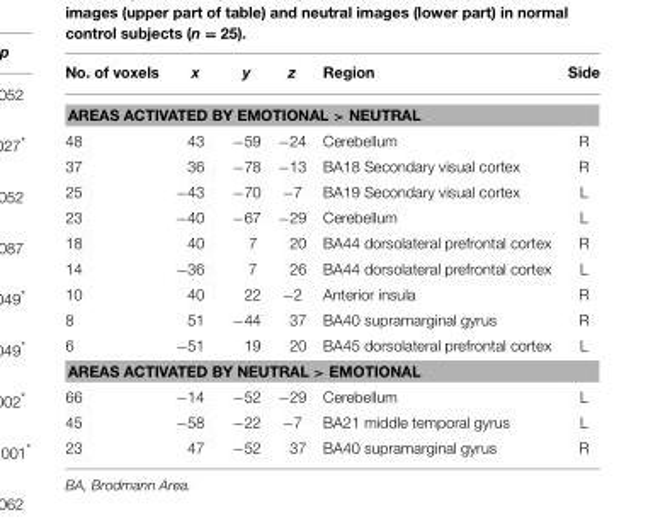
<table><thead><tr><td>No. of voxels</td><td>x</td><td>y</td><td>z</td><td>Region</td><td>Side</td></tr></thead><tbody><tr><td colspan="6">AREAS ACTIVATED BY EMOTIONAL &gt; NEUTRAL</td></tr><tr><td>48</td><td>43</td><td>−59</td><td>−24</td><td>Cerebellum</td><td>R</td></tr><tr><td>37</td><td>36</td><td>−78</td><td>−13</td><td>BA18 Secondary visual cortex</td><td>R</td></tr><tr><td>25</td><td>−43</td><td>−70</td><td>−7</td><td>BA19 Secondary visual cortex</td><td>L</td></tr><tr><td>23</td><td>−40</td><td>−67</td><td>−29</td><td>Cerebellum</td><td>L</td></tr><tr><td>18</td><td>40</td><td>7</td><td>20</td><td>BA44 dorsolateral prefrontal cortex</td><td>R</td></tr><tr><td>14</td><td>−36</td><td>7</td><td>26</td><td>BA44 dorsolateral prefrontal cortex</td><td>L</td></tr><tr><td>10</td><td>40</td><td>22</td><td>−2</td><td>Anterior insula</td><td>R</td></tr><tr><td>8</td><td>51</td><td>−44</td><td>37</td><td>BA40 supramarginal gyrus</td><td>R</td></tr><tr><td>6</td><td>−51</td><td>19</td><td>20</td><td>BA45 dorsolateral prefrontal cortex</td><td>L</td></tr><tr><td colspan="6">AREAS ACTIVATED BY NEUTRAL &gt; EMOTIONAL</td></tr><tr><td>66</td><td>−14</td><td>−52</td><td>−29</td><td>Cerebellum</td><td>L</td></tr><tr><td>45</td><td>−58</td><td>−22</td><td>−7</td><td>BA21 middle temporal gyrus</td><td>L</td></tr><tr><td>23</td><td>47</td><td>−52</td><td>37</td><td>BA40 supramarginal gyrus</td><td>R</td></tr></tbody></table>